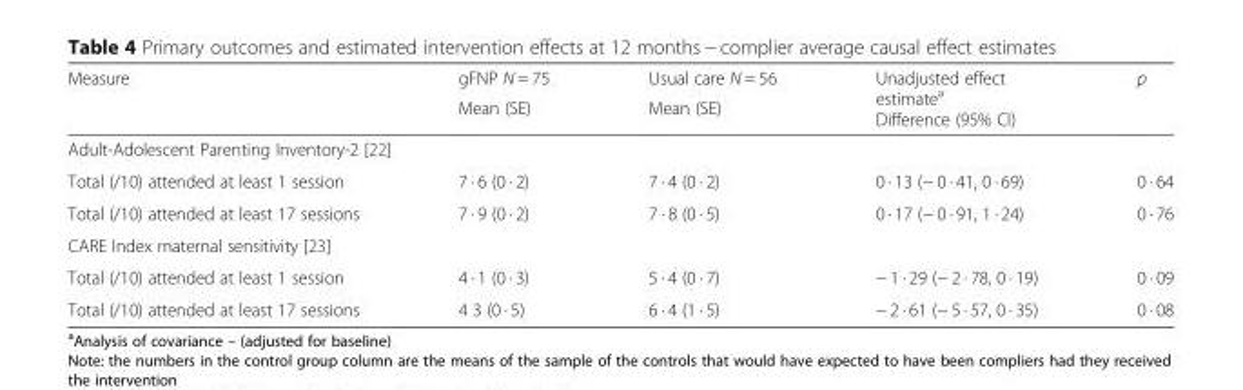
<table><thead><tr><td rowspan="2">Measure</td><td rowspan="2">gFNP N = 75 Mean (SE)</td><td rowspan="2">Usual care N = 56 Mean (SE)</td><td rowspan="2">Unadjusted effect estimate<sup>a</sup> Difference (95% CI)</td><td rowspan="2">p</td></tr><tr></tr></thead><tbody><tr><td colspan="5">Adult-Adolescent Parenting Inventory-2 [22]</td></tr><tr><td>Total (/10) attended at least 1 session</td><td>7 · 6 (0 · 2)</td><td>7 · 4 (0 · 2)</td><td>0 · 13 (− 0 · 41, 0 · 69)</td><td>0 · 64</td></tr><tr><td>Total (/10) attended at least 17 sessions</td><td>7 · 9 (0 · 2)</td><td>7 · 8 (0 · 5)</td><td>0 · 17 (− 0 · 91, 1 · 24)</td><td>0 · 76</td></tr><tr><td colspan="5">CARE Index maternal sensitivity [23]</td></tr><tr><td>Total (/10) attended at least 1 session</td><td>4 · 1 (0 · 3)</td><td>5 · 4 (0 · 7)</td><td>− 1 · 29 (− 2 · 78, 0 · 19)</td><td>0 · 09</td></tr><tr><td>Total (/10) attended at least 17 sessions</td><td>4 3 (0 · 5)</td><td>6 · 4 (1 · 5)</td><td>− 2 · 61 (− 5 · 57, 0 · 35)</td><td>0 · 08</td></tr></tbody></table>